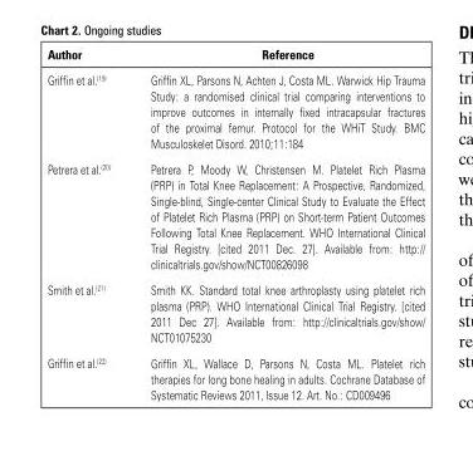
<table><thead><tr><td>Author</td><td>Reference</td></tr></thead><tbody><tr><td>Griffin et al.<sup>(19)</sup></td><td>Griffin XL, Parsons N, Achten J, Costa ML. Warwick Hip Trauma Study: a randomised clinical trial comparing interventions to improve outcomes in internally fixed intracapsular fractures of the proximal femur. Protocol for the WHiT Study. BMC Musculoskelet Disord. 2010;11:184</td></tr><tr><td>Petrera et al.<sup>(20)</sup></td><td>Petrera P, Moody W, Christensen M. Platelet Rich Plasma (PRP) in Total Knee Replacement: A Prospective, Randomized, Single-blind, Single-center Clinical Study to Evaluate the Effect of Platelet Rich Plasma (PRP) on Short-term Patient Outcomes Following Total Knee Replacement. WHO International Clinical Trial Registry. [cited 2011 Dec. 27]. Available from: http:// clinicaltrials.gov/show/NCT00826098</td></tr><tr><td>Smith et al.<sup>(21)</sup></td><td>Smith KK. Standard total knee arthroplasty using platelet rich plasma (PRP). WHO International Clinical Trial Registry. [cited 2011 Dec 27]. Available from: http://clinicaltrials.gov/show/ NCT01075230</td></tr><tr><td>Griffin et al.<sup>(22)</sup></td><td>Griffin XL, Wallace D, Parsons N, Costa ML. Platelet rich therapies for long bone healing in adults. Cochrane Database of Systematic Reviews 2011, Issue 12. Art. No.: CD009496</td></tr></tbody></table>